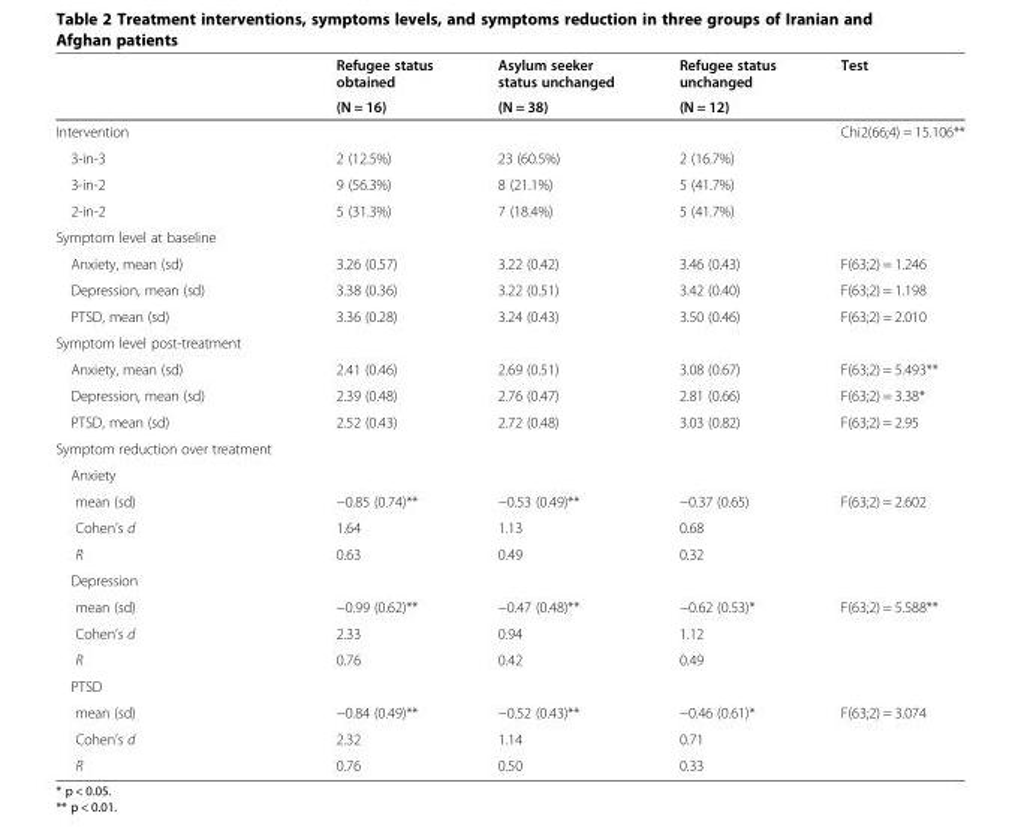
<table><thead><tr><td rowspan="2"></td><td rowspan="2">Refugee status obtained (N = 16)</td><td rowspan="2">Asylum seeker status unchanged (N = 38)</td><td rowspan="2">Refugee status unchanged (N = 12)</td><td rowspan="2">Test</td></tr><tr></tr></thead><tbody><tr><td>Intervention</td><td></td><td></td><td></td><td>Chi2(66;4) = 15.106**</td></tr><tr><td>3-in-3</td><td>2 (12.5%)</td><td>23 (60.5%)</td><td>2 (16.7%)</td><td></td></tr><tr><td>3-in-2</td><td>9 (56.3%)</td><td>8 (21.1%)</td><td>5 (41.7%)</td><td></td></tr><tr><td>2-in-2</td><td>5 (31.3%)</td><td>7 (18.4%)</td><td>5 (41.7%)</td><td></td></tr><tr><td colspan="5">Symptom level at baseline</td></tr><tr><td>Anxiety, mean (sd)</td><td>3.26 (0.57)</td><td>3.22 (0.42)</td><td>3.46 (0.43)</td><td>F(63;2) = 1.246</td></tr><tr><td>Depression, mean (sd)</td><td>3.38 (0.36)</td><td>3.22 (0.51)</td><td>3.42 (0.40)</td><td>F(63;2) = 1.198</td></tr><tr><td>PTSD, mean (sd)</td><td>3.36 (0.28)</td><td>3.24 (0.43)</td><td>3.50 (0.46)</td><td>F(63;2) = 2.010</td></tr><tr><td colspan="5">Symptom level post-treatment</td></tr><tr><td>Anxiety, mean (sd)</td><td>2.41 (0.46)</td><td>2.69 (0.51)</td><td>3.08 (0.67)</td><td>F(63;2) = 5.493**</td></tr><tr><td>Depression, mean (sd)</td><td>2.39 (0.48)</td><td>2.76 (0.47)</td><td>2.81 (0.66)</td><td>F(63;2) = 3.38*</td></tr><tr><td>PTSD, mean (sd)</td><td>2.52 (0.43)</td><td>2.72 (0.48)</td><td>3.03 (0.82)</td><td>F(63;2) = 2.95</td></tr><tr><td colspan="5">Symptom reduction over treatment</td></tr><tr><td colspan="5">Anxiety</td></tr><tr><td>mean (sd)</td><td>−0.85 (0.74)**</td><td>−0.53 (0.49)**</td><td>−0.37 (0.65)</td><td rowspan="3">F(63;2) = 2.602</td></tr><tr><td>Cohen’s d</td><td>1.64</td><td>1.13</td><td>0.68</td></tr><tr><td>R</td><td>0.63</td><td>0.49</td><td>0.32</td></tr><tr><td colspan="5">Depression</td></tr><tr><td>mean (sd)</td><td>−0.99 (0.62)**</td><td>−0.47 (0.48)**</td><td>−0.62 (0.53)*</td><td rowspan="3">F(63;2) = 5.588**</td></tr><tr><td>Cohen’s d</td><td>2.33</td><td>0.94</td><td>1.12</td></tr><tr><td>R</td><td>0.76</td><td>0.42</td><td>0.49</td></tr><tr><td colspan="5">PTSD</td></tr><tr><td>mean (sd)</td><td>−0.84 (0.49)**</td><td>−0.52 (0.43)**</td><td>−0.46 (0.61)*</td><td rowspan="3">F(63;2) = 3.074</td></tr><tr><td>Cohen’s d</td><td>2.32</td><td>1.14</td><td>0.71</td></tr><tr><td>R</td><td>0.76</td><td>0.50</td><td>0.33</td></tr></tbody></table>